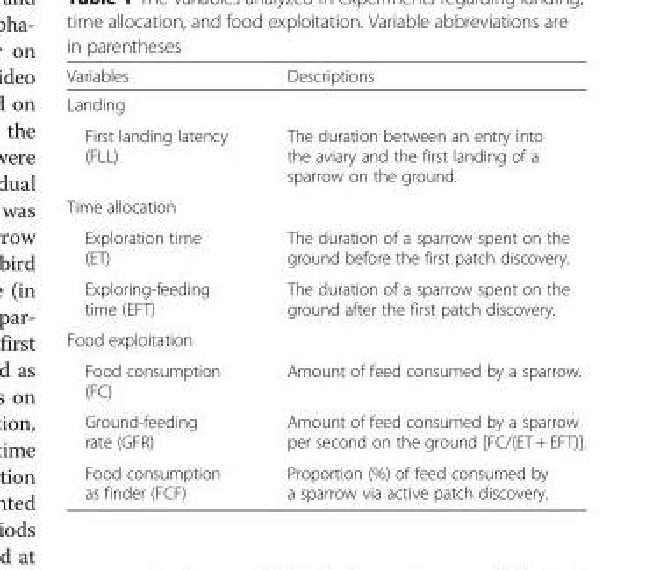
<table><thead><tr><td>Variables</td><td>Descriptions</td></tr></thead><tbody><tr><td colspan="2">Landing</td></tr><tr><td>First landing latency (FLL)</td><td>The duration between an entry into the aviary and the first landing of a sparrow on the ground.</td></tr><tr><td colspan="2">Time allocation</td></tr><tr><td>Exploration time (ET)</td><td>The duration of a sparrow spent on the ground before the first patch discovery.</td></tr><tr><td>Exploring-feeding time (EFT)</td><td>The duration of a sparrow spent on the ground after the first patch discovery.</td></tr><tr><td colspan="2">Food exploitation</td></tr><tr><td>Food consumption (FC)</td><td>Amount of feed consumed by a sparrow.</td></tr><tr><td>Ground-feeding rate (GFR)</td><td>Amount of feed consumed by a sparrow per second on the ground [FC/(ET + EFT)].</td></tr><tr><td>Food consumption as finder (FCF)</td><td>Proportion (%) of feed consumed by a sparrow via active patch discovery.</td></tr></tbody></table>